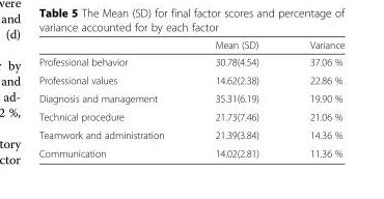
<table><thead><tr><td></td><td>Mean (SD)</td><td>Variance</td></tr></thead><tbody><tr><td>Professional behavior</td><td>30.78(4.54)</td><td>37.06 %</td></tr><tr><td>Professional values</td><td>14.62(2.38)</td><td>22.86 %</td></tr><tr><td>Diagnosis and management</td><td>35.31(6.19)</td><td>19.90 %</td></tr><tr><td>Technical procedure</td><td>21.73(7.46)</td><td>21.06 %</td></tr><tr><td>Teamwork and administration</td><td>21.39(3.84)</td><td>14.36 %</td></tr><tr><td>Communication</td><td>14.02(2.81)</td><td>11.36 %</td></tr></tbody></table>